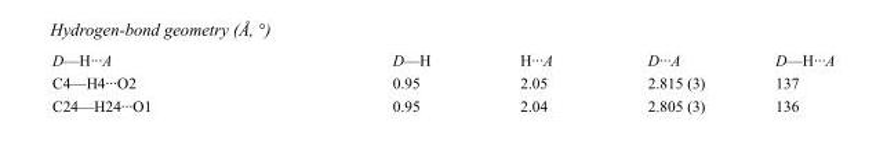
<table><tbody><tr><td>D—H···A</td><td>D—H</td><td>H···A</td><td>D···A</td><td>D—H···A</td></tr><tr><td>C4—H4···O2</td><td>0.95</td><td>2.05</td><td>2.815 (3)</td><td>137</td></tr><tr><td>C24—H24···O1</td><td>0.95</td><td>2.04</td><td>2.805 (3)</td><td>136</td></tr></tbody></table>